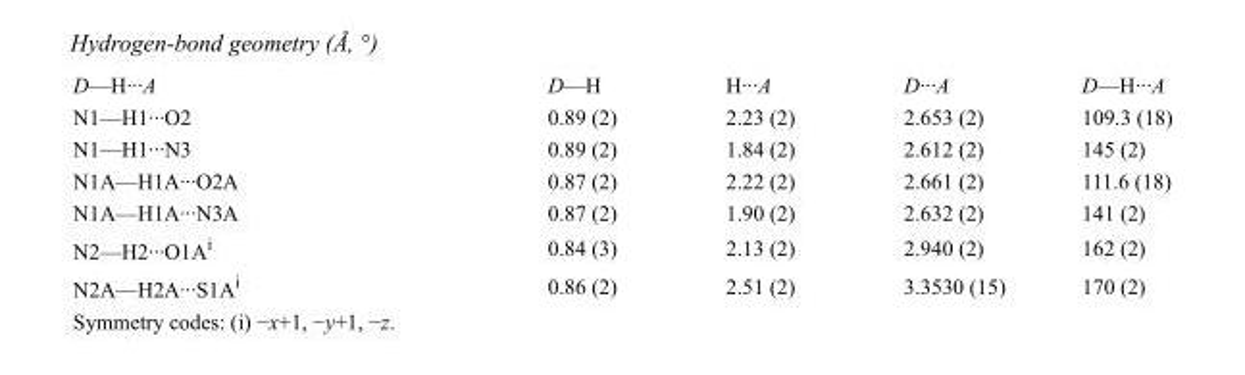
<table><tbody><tr><td>D—H···A</td><td>D—H</td><td>H···A</td><td>D···A</td><td>D—H···A</td></tr><tr><td>N1—H1···O2</td><td>0.89 (2)</td><td>2.23 (2)</td><td>2.653 (2)</td><td>109.3 (18)</td></tr><tr><td>N1—H1···N3</td><td>0.89 (2)</td><td>1.84 (2)</td><td>2.612 (2)</td><td>145 (2)</td></tr><tr><td>N1A—H1A···O2A</td><td>0.87 (2)</td><td>2.22 (2)</td><td>2.661 (2)</td><td>111.6 (18)</td></tr><tr><td>N1A—H1A···N3A</td><td>0.87 (2)</td><td>1.90 (2)</td><td>2.632 (2)</td><td>141 (2)</td></tr><tr><td>N2—H2···O1A<sup>i</sup></td><td>0.84 (3)</td><td>2.13 (2)</td><td>2.940 (2)</td><td>162 (2)</td></tr><tr><td>N2A—H2A···S1A<sup>i</sup></td><td>0.86 (2)</td><td>2.51 (2)</td><td>3.3530 (15)</td><td>170 (2)</td></tr></tbody></table>